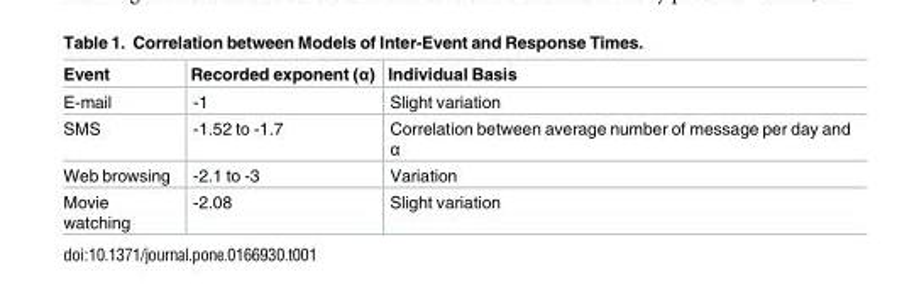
<table><thead><tr><td>Event</td><td>Recorded exponent (α)</td><td>Individual Basis</td></tr></thead><tbody><tr><td>E-mail</td><td>-1</td><td>Slight variation</td></tr><tr><td>SMS</td><td>-1.52 to -1.7</td><td>Correlation between average number of message per day and α</td></tr><tr><td>Web browsing</td><td>-2.1 to -3</td><td>Variation</td></tr><tr><td>Movie watching</td><td>-2.08</td><td>Slight variation</td></tr></tbody></table>